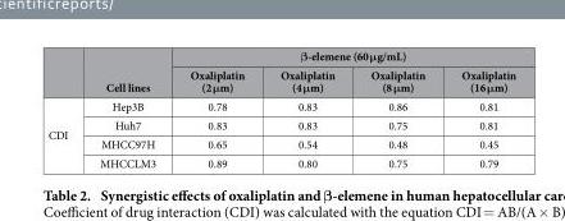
<table><thead><tr><td rowspan="2"></td><td rowspan="2">Cell lines</td><td colspan="4">β-elemene (60 μg/mL)</td></tr><tr><td>Oxaliplatin (2 μm)</td><td>Oxaliplatin (4 μm)</td><td>Oxaliplatin (8 μm)</td><td>Oxaliplatin (16 μm)</td></tr></thead><tbody><tr><td rowspan="4">CDI</td><td>Hep3B</td><td>0.78</td><td>0.83</td><td>0.86</td><td>0.81</td></tr><tr><td>Huh7</td><td>0.83</td><td>0.83</td><td>0.75</td><td>0.81</td></tr><tr><td>MHCC97H</td><td>0.65</td><td>0.54</td><td>0.48</td><td>0.45</td></tr><tr><td>MHCCLM3</td><td>0.89</td><td>0.80</td><td>0.75</td><td>0.79</td></tr></tbody></table>